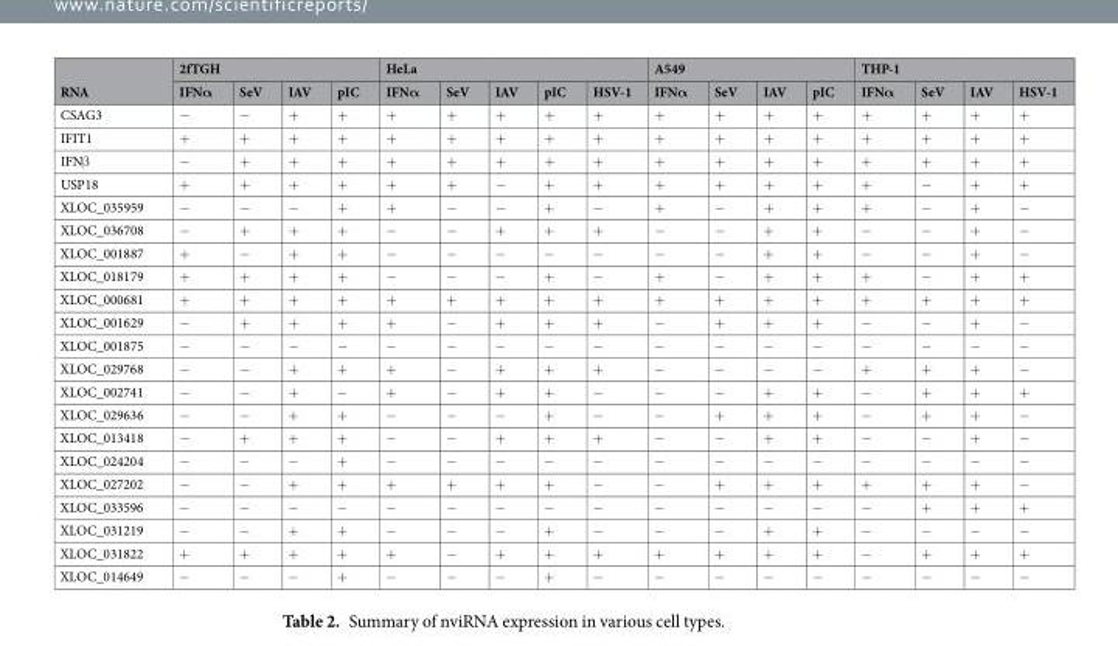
<table><thead><tr><td rowspan="2">RNA</td><td colspan="4">2fTGH</td><td colspan="5">HeLa</td><td colspan="4">A549</td><td colspan="4">THP-1</td></tr><tr><td>IFNα</td><td>SeV</td><td>IAV</td><td>pIC</td><td>IFNα</td><td>SeV</td><td>IAV</td><td>pIC</td><td>HSV-1</td><td>IFNα</td><td>SeV</td><td>IAV</td><td>pIC</td><td>IFNα</td><td>SeV</td><td>IAV</td><td>HSV-1</td></tr></thead><tbody><tr><td>CSAG3</td><td>−</td><td>−</td><td>+</td><td>+</td><td>+</td><td>+</td><td>+</td><td>+</td><td>+</td><td>+</td><td>+</td><td>+</td><td>+</td><td>+</td><td>+</td><td>+</td><td>+</td></tr><tr><td>IFIT1</td><td>+</td><td>+</td><td>+</td><td>+</td><td>+</td><td>+</td><td>+</td><td>+</td><td>+</td><td>+</td><td>+</td><td>+</td><td>+</td><td>+</td><td>+</td><td>+</td><td>+</td></tr><tr><td>IFNβ</td><td>−</td><td>+</td><td>+</td><td>+</td><td>+</td><td>+</td><td>+</td><td>+</td><td>+</td><td>+</td><td>+</td><td>+</td><td>+</td><td>+</td><td>+</td><td>+</td><td>+</td></tr><tr><td>USP18</td><td>+</td><td>+</td><td>+</td><td>+</td><td>+</td><td>+</td><td>−</td><td>+</td><td>+</td><td>+</td><td>+</td><td>+</td><td>+</td><td>+</td><td>−</td><td>+</td><td>+</td></tr><tr><td>XLOC_035959</td><td>−</td><td>−</td><td>−</td><td>+</td><td>+</td><td>−</td><td>−</td><td>+</td><td>−</td><td>+</td><td>−</td><td>+</td><td>+</td><td>+</td><td>−</td><td>+</td><td>−</td></tr><tr><td>XLOC_036708</td><td>−</td><td>+</td><td>+</td><td>+</td><td>−</td><td>−</td><td>+</td><td>+</td><td>+</td><td>−</td><td>−</td><td>+</td><td>+</td><td>−</td><td>−</td><td>+</td><td>−</td></tr><tr><td>XLOC_001887</td><td>+</td><td>−</td><td>+</td><td>+</td><td>−</td><td>−</td><td>−</td><td>−</td><td>−</td><td>−</td><td>−</td><td>+</td><td>+</td><td>−</td><td>−</td><td>+</td><td>−</td></tr><tr><td>XLOC_018179</td><td>+</td><td>+</td><td>+</td><td>+</td><td>−</td><td>−</td><td>−</td><td>+</td><td>−</td><td>+</td><td>−</td><td>+</td><td>+</td><td>+</td><td>−</td><td>+</td><td>+</td></tr><tr><td>XLOC_000681</td><td>+</td><td>+</td><td>+</td><td>+</td><td>+</td><td>+</td><td>+</td><td>+</td><td>+</td><td>+</td><td>+</td><td>+</td><td>+</td><td>+</td><td>+</td><td>+</td><td>+</td></tr><tr><td>XLOC_001629</td><td>−</td><td>+</td><td>+</td><td>+</td><td>+</td><td>−</td><td>+</td><td>+</td><td>+</td><td>−</td><td>+</td><td>+</td><td>+</td><td>−</td><td>−</td><td>+</td><td>−</td></tr><tr><td>XLOC_001875</td><td>−</td><td>−</td><td>−</td><td>−</td><td>−</td><td>−</td><td>−</td><td>−</td><td>−</td><td>−</td><td>−</td><td>−</td><td>−</td><td>−</td><td>−</td><td>−</td><td>−</td></tr><tr><td>XLOC_029768</td><td>−</td><td>−</td><td>+</td><td>+</td><td>+</td><td>−</td><td>+</td><td>+</td><td>+</td><td>−</td><td>−</td><td>−</td><td>−</td><td>+</td><td>+</td><td>+</td><td>−</td></tr><tr><td>XLOC_002741</td><td>−</td><td>−</td><td>+</td><td>−</td><td>+</td><td>−</td><td>+</td><td>+</td><td>−</td><td>−</td><td>−</td><td>+</td><td>+</td><td>−</td><td>+</td><td>+</td><td>+</td></tr><tr><td>XLOC_029636</td><td>−</td><td>−</td><td>+</td><td>+</td><td>−</td><td>−</td><td>−</td><td>+</td><td>−</td><td>−</td><td>+</td><td>+</td><td>+</td><td>−</td><td>+</td><td>+</td><td>−</td></tr><tr><td>XLOC_013418</td><td>−</td><td>+</td><td>+</td><td>+</td><td>−</td><td>−</td><td>+</td><td>+</td><td>+</td><td>−</td><td>−</td><td>+</td><td>+</td><td>−</td><td>−</td><td>+</td><td>−</td></tr><tr><td>XLOC_024204</td><td>−</td><td>−</td><td>−</td><td>+</td><td>−</td><td>−</td><td>−</td><td>−</td><td>−</td><td>−</td><td>−</td><td>−</td><td>−</td><td>−</td><td>−</td><td>−</td><td>−</td></tr><tr><td>XLOC_027202</td><td>−</td><td>−</td><td>+</td><td>+</td><td>+</td><td>+</td><td>+</td><td>+</td><td>−</td><td>−</td><td>+</td><td>+</td><td>+</td><td>+</td><td>+</td><td>+</td><td>−</td></tr><tr><td>XLOC_033596</td><td>−</td><td>−</td><td>−</td><td>−</td><td>−</td><td>−</td><td>−</td><td>−</td><td>−</td><td>−</td><td>−</td><td>−</td><td>−</td><td>−</td><td>+</td><td>+</td><td>+</td></tr><tr><td>XLOC_031219</td><td>−</td><td>−</td><td>+</td><td>+</td><td>−</td><td>−</td><td>−</td><td>+</td><td>−</td><td>−</td><td>−</td><td>+</td><td>+</td><td>−</td><td>−</td><td>−</td><td>−</td></tr><tr><td>XLOC_031822</td><td>+</td><td>+</td><td>+</td><td>+</td><td>+</td><td>−</td><td>+</td><td>+</td><td>+</td><td>+</td><td>+</td><td>+</td><td>+</td><td>−</td><td>+</td><td>+</td><td>+</td></tr><tr><td>XLOC_014649</td><td>−</td><td>−</td><td>−</td><td>+</td><td>−</td><td>−</td><td>−</td><td>+</td><td>−</td><td>−</td><td>−</td><td>−</td><td>−</td><td>−</td><td>−</td><td>−</td><td>−</td></tr></tbody></table>